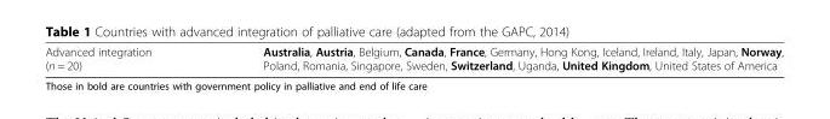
<table><tbody><tr><td>Advanced integration (n = 20)</td><td>Australia, Austria, Belgium, Canada, France, Germany, Hong Kong, Iceland, Ireland, Italy, Japan, Norway, Poland, Romania, Singapore, Sweden, Switzerland, Uganda, United Kingdom, United States of America</td></tr></tbody></table>